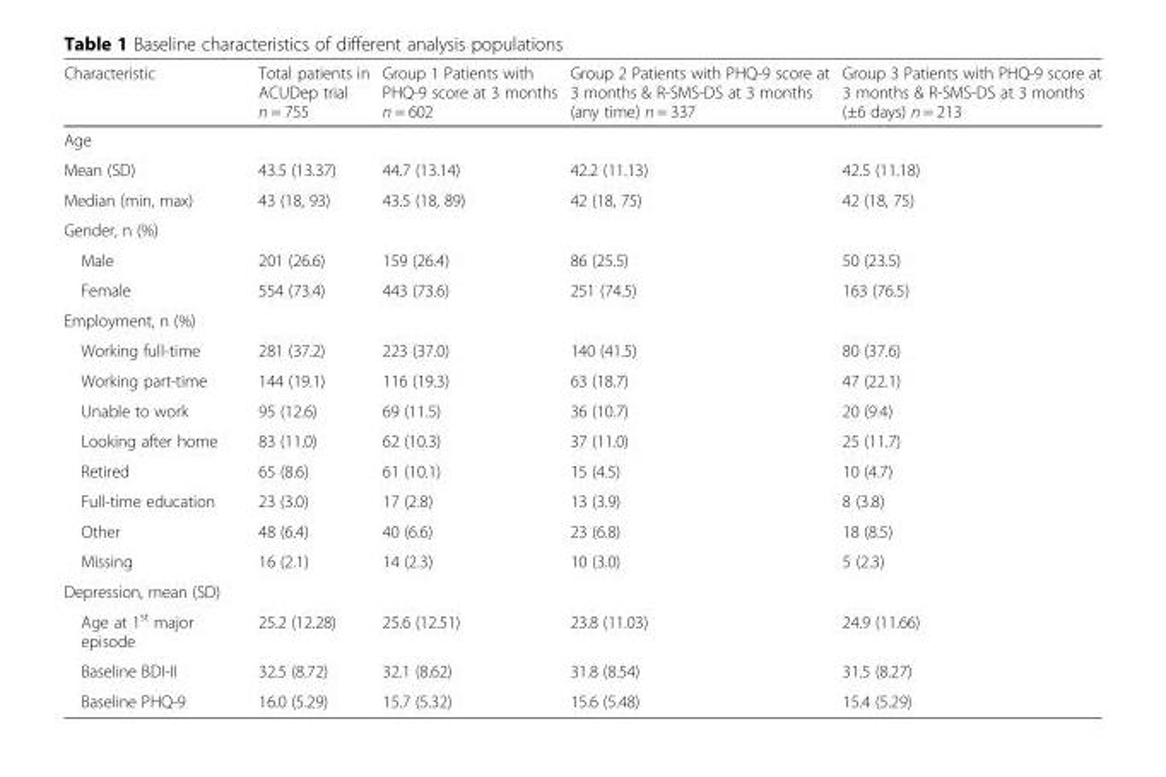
<table><thead><tr><td>Characteristic</td><td>Total patients in ACUDep trial n = 755</td><td>Group 1 Patients with PHQ-9 score at 3 months n = 602</td><td>Group 2 Patients with PHQ-9 score at 3 months &amp; R-SMS-DS at 3 months (any time) n = 337</td><td>Group 3 Patients with PHQ-9 score at 3 months &amp; R-SMS-DS at 3 months (±6 days) n = 213</td></tr></thead><tbody><tr><td colspan="5">Age</td></tr><tr><td>Mean (SD)</td><td>43.5 (13.37)</td><td>44.7 (13.14)</td><td>42.2 (11.13)</td><td>42.5 (11.18)</td></tr><tr><td>Median (min, max)</td><td>43 (18, 93)</td><td>43.5 (18, 89)</td><td>42 (18, 75)</td><td>42 (18, 75)</td></tr><tr><td colspan="5">Gender, n (%)</td></tr><tr><td>Male</td><td>201 (26.6)</td><td>159 (26.4)</td><td>86 (25.5)</td><td>50 (23.5)</td></tr><tr><td>Female</td><td>554 (73.4)</td><td>443 (73.6)</td><td>251 (74.5)</td><td>163 (76.5)</td></tr><tr><td colspan="5">Employment, n (%)</td></tr><tr><td>Working full-time</td><td>281 (37.2)</td><td>223 (37.0)</td><td>140 (41.5)</td><td>80 (37.6)</td></tr><tr><td>Working part-time</td><td>144 (19.1)</td><td>116 (19.3)</td><td>63 (18.7)</td><td>47 (22.1)</td></tr><tr><td>Unable to work</td><td>95 (12.6)</td><td>69 (11.5)</td><td>36 (10.7)</td><td>20 (9.4)</td></tr><tr><td>Looking after home</td><td>83 (11.0)</td><td>62 (10.3)</td><td>37 (11.0)</td><td>25 (11.7)</td></tr><tr><td>Retired</td><td>65 (8.6)</td><td>61 (10.1)</td><td>15 (4.5)</td><td>10 (4.7)</td></tr><tr><td>Full-time education</td><td>23 (3.0)</td><td>17 (2.8)</td><td>13 (3.9)</td><td>8 (3.8)</td></tr><tr><td>Other</td><td>48 (6.4)</td><td>40 (6.6)</td><td>23 (6.8)</td><td>18 (8.5)</td></tr><tr><td>Missing</td><td>16 (2.1)</td><td>14 (2.3)</td><td>10 (3.0)</td><td>5 (2.3)</td></tr><tr><td colspan="5">Depression, mean (SD)</td></tr><tr><td>Age at 1<sup>st</sup> major episode</td><td>25.2 (12.28)</td><td>25.6 (12.51)</td><td>23.8 (11.03)</td><td>24.9 (11.66)</td></tr><tr><td>Baseline BDI-II</td><td>32.5 (8.72)</td><td>32.1 (8.62)</td><td>31.8 (8.54)</td><td>31.5 (8.27)</td></tr><tr><td>Baseline PHQ-9</td><td>16.0 (5.29)</td><td>15.7 (5.32)</td><td>15.6 (5.48)</td><td>15.4 (5.29)</td></tr></tbody></table>